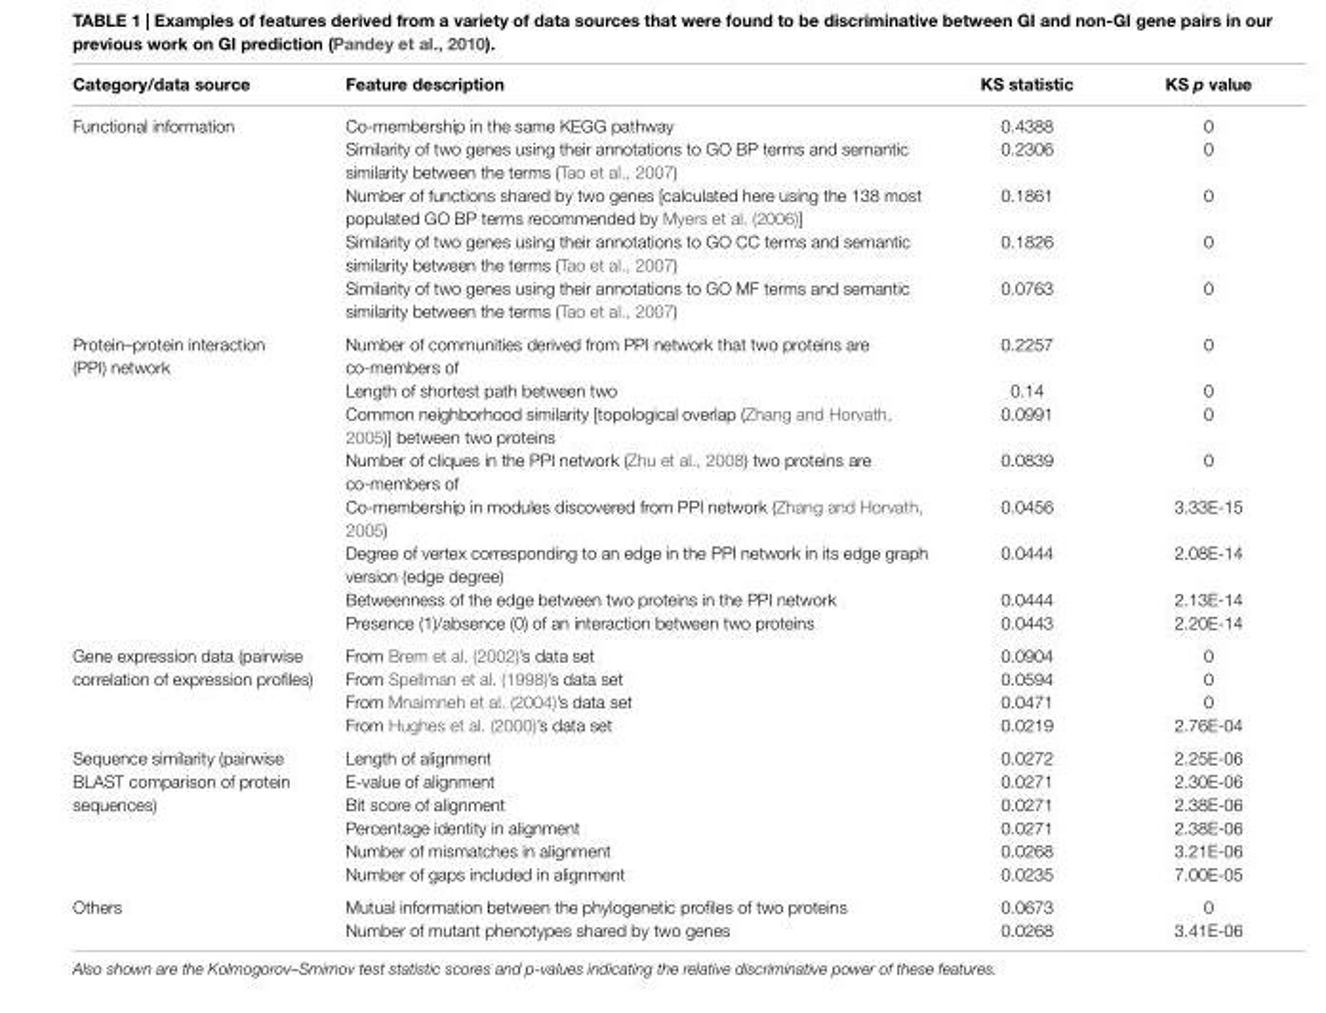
<table><thead><tr><td>Category/data source</td><td>Feature description</td><td>KS statistic</td><td>KS p value</td></tr></thead><tbody><tr><td rowspan="5">Functional information</td><td>Co-membership in the same KEGG pathway</td><td>0.4388</td><td>0</td></tr><tr><td>Similarity of two genes using their annotations to GO BP terms and semantic similarity between the terms (Tao et al., 2007)</td><td>0.2306</td><td>0</td></tr><tr><td>Number of functions shared by two genes [calculated here using the 138 most populated GO BP terms recommended by Myers et al. (2006)]</td><td>0.1861</td><td>0</td></tr><tr><td>Similarity of two genes using their annotations to GO CC terms and semantic similarity between the terms (Tao et al., 2007)</td><td>0.1826</td><td>0</td></tr><tr><td>Similarity of two genes using their annotations to GO MF terms and semantic similarity between the terms (Tao et al., 2007)</td><td>0.0763</td><td>0</td></tr><tr><td rowspan="8">Protein–protein interaction (PPI) network</td><td>Number of communities derived from PPI network that two proteins are co-members of</td><td>0.2257</td><td>0</td></tr><tr><td>Length of shortest path between two</td><td>0.14</td><td>0</td></tr><tr><td>Common neighborhood similarity [topological overlap (Zhang and Horvath, 2005)] between two proteins</td><td>0.0991</td><td>0</td></tr><tr><td>Number of cliques in the PPI network (Zhu et al., 2008) two proteins are co-members of</td><td>0.0839</td><td>0</td></tr><tr><td>Co-membership in modules discovered from PPI network (Zhang and Horvath, 2005)</td><td>0.0456</td><td>3.33E-15</td></tr><tr><td>Degree of vertex corresponding to an edge in the PPI network in its edge graph version (edge degree)</td><td>0.0444</td><td>2.08E-14</td></tr><tr><td>Betweenness of the edge between two proteins in the PPI network</td><td>0.0444</td><td>2.13E-14</td></tr><tr><td>Presence (1)/absence (0) of an interaction between two proteins</td><td>0.0443</td><td>2.20E-14</td></tr><tr><td rowspan="4">Gene expression data (pairwise correlation of expression profiles)</td><td>From Brem et al. (2002)’s data set</td><td>0.0904</td><td>0</td></tr><tr><td>From Spellman et al. (1998)’s data set</td><td>0.0594</td><td>0</td></tr><tr><td>From Mnaimneh et al. (2004)’s data set</td><td>0.0471</td><td>0</td></tr><tr><td>From Hughes et al. (2000)’s data set</td><td>0.0219</td><td>2.76E-04</td></tr><tr><td rowspan="6">Sequence similarity (pairwise BLAST comparison of protein sequences)</td><td>Length of alignment</td><td>0.0272</td><td>2.25E-06</td></tr><tr><td>E-value of alignment</td><td>0.0271</td><td>2.30E-06</td></tr><tr><td>Bit score of alignment</td><td>0.0271</td><td>2.38E-06</td></tr><tr><td>Percentage identity in alignment</td><td>0.0271</td><td>2.38E-06</td></tr><tr><td>Number of mismatches in alignment</td><td>0.0268</td><td>3.21E-06</td></tr><tr><td>Number of gaps included in alignment</td><td>0.0235</td><td>7.00E-05</td></tr><tr><td rowspan="2">Others</td><td>Mutual information between the phylogenetic profiles of two proteins</td><td>0.0673</td><td>0</td></tr><tr><td>Number of mutant phenotypes shared by two genes</td><td>0.0268</td><td>3.41E-06</td></tr></tbody></table>